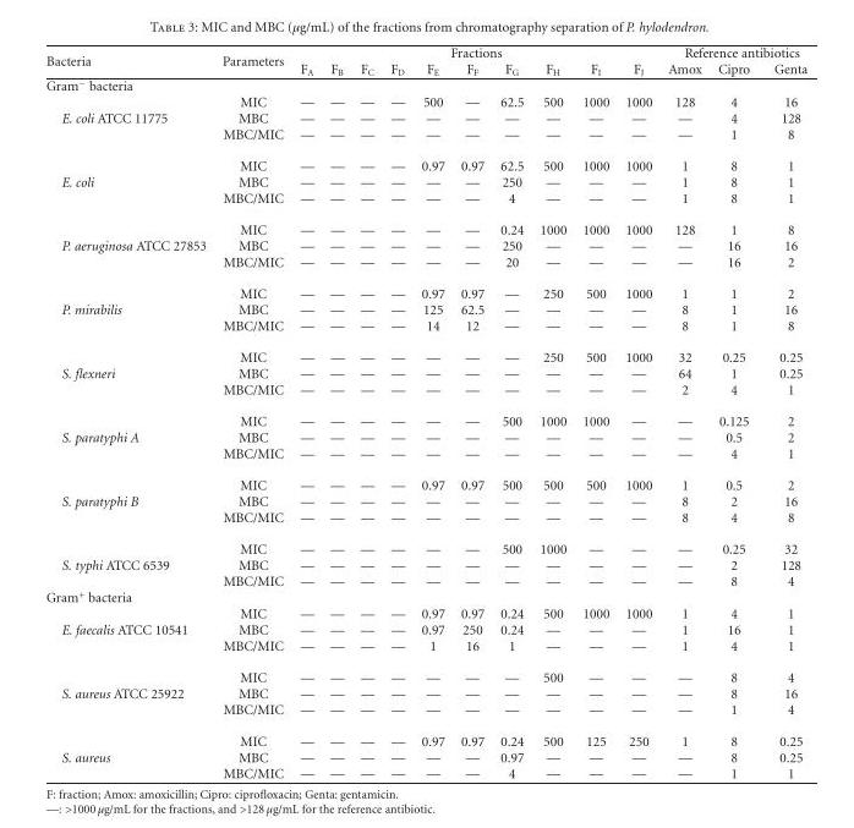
<table><thead><tr><td rowspan="2">Bacteria</td><td rowspan="2">Parameters</td><td colspan="10">Fractions</td><td colspan="3">Reference antibiotics</td></tr><tr><td>F<sub>A</sub></td><td>F<sub>B</sub></td><td>F<sub>C</sub></td><td>F<sub>D</sub></td><td>F<sub>E</sub></td><td>F<sub>F</sub></td><td>F<sub>G</sub></td><td>F<sub>H</sub></td><td>F<sub>I</sub></td><td>F<sub>J</sub></td><td>Amox</td><td>Cipro</td><td>Genta</td></tr></thead><tbody><tr><td colspan="15">Gram<sup>−</sup> bacteria</td></tr><tr><td rowspan="3">E. coli ATCC 11775</td><td>MIC</td><td>—</td><td>—</td><td>—</td><td>—</td><td>500</td><td>—</td><td>62.5</td><td>500</td><td>1000</td><td>1000</td><td>128</td><td>4</td><td>16</td></tr><tr><td>MBC</td><td>—</td><td>—</td><td>—</td><td>—</td><td>—</td><td>—</td><td>—</td><td>—</td><td>—</td><td>—</td><td>—</td><td>4</td><td>128</td></tr><tr><td>MBC/MIC</td><td>—</td><td>—</td><td>—</td><td>—</td><td>—</td><td>—</td><td>—</td><td>—</td><td>—</td><td>—</td><td>—</td><td>1</td><td>8</td></tr><tr><td rowspan="3">E. coli</td><td>MIC</td><td>—</td><td>—</td><td>—</td><td>—</td><td>0.97</td><td>0.97</td><td>62.5</td><td>500</td><td>1000</td><td>1000</td><td>1</td><td>8</td><td>1</td></tr><tr><td>MBC</td><td>—</td><td>—</td><td>—</td><td>—</td><td>—</td><td>—</td><td>250</td><td>—</td><td>—</td><td>—</td><td>1</td><td>8</td><td>1</td></tr><tr><td>MBC/MIC</td><td>—</td><td>—</td><td>—</td><td>—</td><td>—</td><td>—</td><td>4</td><td>—</td><td>—</td><td>—</td><td>1</td><td>8</td><td>1</td></tr><tr><td rowspan="3">P. aeruginosa ATCC 27853</td><td>MIC</td><td>—</td><td>—</td><td>—</td><td>—</td><td>—</td><td>—</td><td>0.24</td><td>1000</td><td>1000</td><td>1000</td><td>128</td><td>1</td><td>8</td></tr><tr><td>MBC</td><td>—</td><td>—</td><td>—</td><td>—</td><td>—</td><td>—</td><td>250</td><td>—</td><td>—</td><td>—</td><td>—</td><td>16</td><td>16</td></tr><tr><td>MBC/MIC</td><td>—</td><td>—</td><td>—</td><td>—</td><td>—</td><td>—</td><td>20</td><td>—</td><td>—</td><td>—</td><td>—</td><td>16</td><td>2</td></tr><tr><td rowspan="3">P. mirabilis</td><td>MIC</td><td>—</td><td>—</td><td>—</td><td>—</td><td>0.97</td><td>0.97</td><td>—</td><td>250</td><td>500</td><td>1000</td><td>1</td><td>1</td><td>2</td></tr><tr><td>MBC</td><td>—</td><td>—</td><td>—</td><td>—</td><td>125</td><td>62.5</td><td>—</td><td>—</td><td>—</td><td>—</td><td>8</td><td>1</td><td>16</td></tr><tr><td>MBC/MIC</td><td>—</td><td>—</td><td>—</td><td>—</td><td>14</td><td>12</td><td>—</td><td>—</td><td>—</td><td>—</td><td>8</td><td>1</td><td>8</td></tr><tr><td rowspan="3">S. flexneri</td><td>MIC</td><td>—</td><td>—</td><td>—</td><td>—</td><td>—</td><td>—</td><td>—</td><td>250</td><td>500</td><td>1000</td><td>32</td><td>0.25</td><td>0.25</td></tr><tr><td>MBC</td><td>—</td><td>—</td><td>—</td><td>—</td><td>—</td><td>—</td><td>—</td><td>—</td><td>—</td><td>—</td><td>64</td><td>1</td><td>0.25</td></tr><tr><td>MBC/MIC</td><td>—</td><td>—</td><td>—</td><td>—</td><td>—</td><td>—</td><td>—</td><td>—</td><td>—</td><td>—</td><td>2</td><td>4</td><td>1</td></tr><tr><td rowspan="3">S. paratyphi A</td><td>MIC</td><td>—</td><td>—</td><td>—</td><td>—</td><td>—</td><td>—</td><td>500</td><td>1000</td><td>1000</td><td>—</td><td>—</td><td>0.125</td><td>2</td></tr><tr><td>MBC</td><td>—</td><td>—</td><td>—</td><td>—</td><td>—</td><td>—</td><td>—</td><td>—</td><td>—</td><td>—</td><td>—</td><td>0.5</td><td>2</td></tr><tr><td>MBC/MIC</td><td>—</td><td>—</td><td>—</td><td>—</td><td>—</td><td>—</td><td>—</td><td>—</td><td>—</td><td>—</td><td>—</td><td>4</td><td>1</td></tr><tr><td rowspan="3">S. paratyphi B</td><td>MIC</td><td>—</td><td>—</td><td>—</td><td>—</td><td>0.97</td><td>0.97</td><td>500</td><td>500</td><td>500</td><td>1000</td><td>1</td><td>0.5</td><td>2</td></tr><tr><td>MBC</td><td>—</td><td>—</td><td>—</td><td>—</td><td>—</td><td>—</td><td>—</td><td>—</td><td>—</td><td>—</td><td>8</td><td>2</td><td>16</td></tr><tr><td>MBC/MIC</td><td>—</td><td>—</td><td>—</td><td>—</td><td>—</td><td>—</td><td>—</td><td>—</td><td>—</td><td>—</td><td>8</td><td>4</td><td>8</td></tr><tr><td rowspan="3">S. typhi ATCC 6539</td><td>MIC</td><td>—</td><td>—</td><td>—</td><td>—</td><td>—</td><td>—</td><td>500</td><td>1000</td><td>—</td><td>—</td><td>—</td><td>0.25</td><td>32</td></tr><tr><td>MBC</td><td>—</td><td>—</td><td>—</td><td>—</td><td>—</td><td>—</td><td>—</td><td>—</td><td>—</td><td>—</td><td>—</td><td>2</td><td>128</td></tr><tr><td>MBC/MIC</td><td>—</td><td>—</td><td>—</td><td>—</td><td>—</td><td>—</td><td>—</td><td>—</td><td>—</td><td>—</td><td>—</td><td>8</td><td>4</td></tr><tr><td colspan="15">Gram<sup>+</sup> bacteria</td></tr><tr><td rowspan="3">E. faecalis ATCC 10541</td><td>MIC</td><td>—</td><td>—</td><td>—</td><td>—</td><td>0.97</td><td>0.97</td><td>0.24</td><td>500</td><td>1000</td><td>1000</td><td>1</td><td>4</td><td>1</td></tr><tr><td>MBC</td><td>—</td><td>—</td><td>—</td><td>—</td><td>0.97</td><td>250</td><td>0.24</td><td>—</td><td>—</td><td>—</td><td>1</td><td>16</td><td>1</td></tr><tr><td>MBC/MIC</td><td>—</td><td>—</td><td>—</td><td>—</td><td>1</td><td>16</td><td>1</td><td>—</td><td>—</td><td>—</td><td>1</td><td>4</td><td>1</td></tr><tr><td rowspan="3">S. aureus ATCC 25922</td><td>MIC</td><td>—</td><td>—</td><td>—</td><td>—</td><td>—</td><td>—</td><td>—</td><td>500</td><td>—</td><td>—</td><td>—</td><td>8</td><td>4</td></tr><tr><td>MBC</td><td>—</td><td>—</td><td>—</td><td>—</td><td>—</td><td>—</td><td>—</td><td>—</td><td>—</td><td>—</td><td>—</td><td>8</td><td>16</td></tr><tr><td>MBC/MIC</td><td>—</td><td>—</td><td>—</td><td>—</td><td>—</td><td>—</td><td>—</td><td>—</td><td>—</td><td>—</td><td>—</td><td>1</td><td>4</td></tr><tr><td rowspan="3">S. aureus</td><td>MIC</td><td>—</td><td>—</td><td>—</td><td>—</td><td>0.97</td><td>0.97</td><td>0.24</td><td>500</td><td>125</td><td>250</td><td>1</td><td>8</td><td>0.25</td></tr><tr><td>MBC</td><td>—</td><td>—</td><td>—</td><td>—</td><td>—</td><td>—</td><td>0.97</td><td>—</td><td>—</td><td>—</td><td>—</td><td>8</td><td>0.25</td></tr><tr><td>MBC/MIC</td><td>—</td><td>—</td><td>—</td><td>—</td><td>—</td><td>—</td><td>4</td><td>—</td><td>—</td><td>—</td><td>—</td><td>1</td><td>1</td></tr></tbody></table>